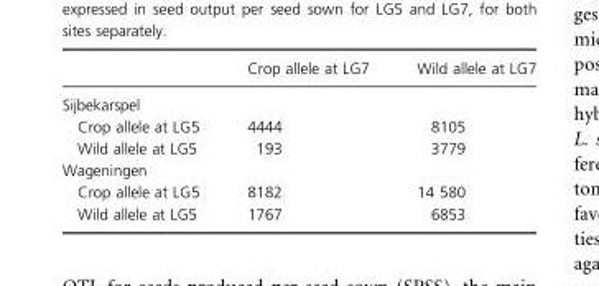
<table><thead><tr><td></td><td>Crop allele at LG7</td><td>Wild allele at LG7</td></tr></thead><tbody><tr><td colspan="3">Sijbekarspel</td></tr><tr><td>Crop allele at LG5</td><td>4444</td><td>8105</td></tr><tr><td>Wild allele at LG5</td><td>193</td><td>3779</td></tr><tr><td colspan="3">Wageningen</td></tr><tr><td>Crop allele at LG5</td><td>8182</td><td>14 580</td></tr><tr><td>Wild allele at LG5</td><td>1767</td><td>6853</td></tr></tbody></table>